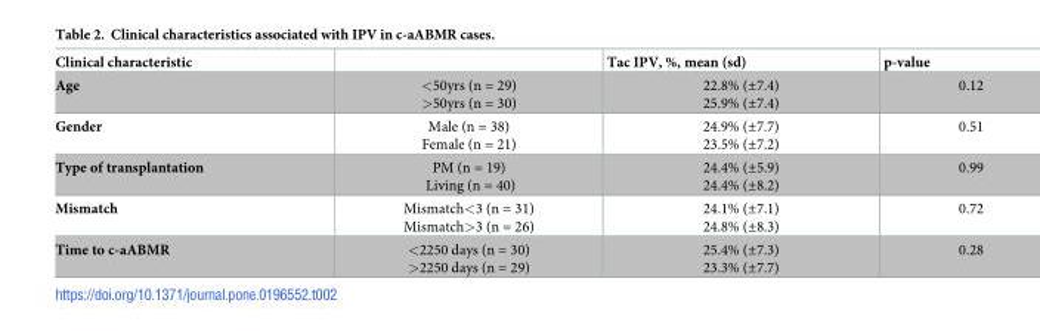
<table><thead><tr><td>Clinical characteristic</td><td></td><td>Tac IPV, %, mean (sd)</td><td>p-value</td></tr></thead><tbody><tr><td>Age</td><td>&lt;50yrs (n = 29) &gt;50yrs (n = 30)</td><td>22.8% (±7.4) 25.9% (±7.4)</td><td>0.12</td></tr><tr><td>Gender</td><td>Male (n = 38) Female (n = 21)</td><td>24.9% (±7.7) 23.5% (±7.2)</td><td>0.51</td></tr><tr><td>Type of transplantation</td><td>PM (n = 19) Living (n = 40)</td><td>24.4% (±5.9) 24.4% (±8.2)</td><td>0.99</td></tr><tr><td>Mismatch</td><td>Mismatch&lt;3 (n = 31) Mismatch&gt;3 (n = 26)</td><td>24.1% (±7.1) 24.8% (±8.3)</td><td>0.72</td></tr><tr><td>Time to c-aABMR</td><td>&lt;2250 days (n = 30) &gt;2250 days (n = 29)</td><td>25.4% (±7.3) 23.3% (±7.7)</td><td>0.28</td></tr></tbody></table>